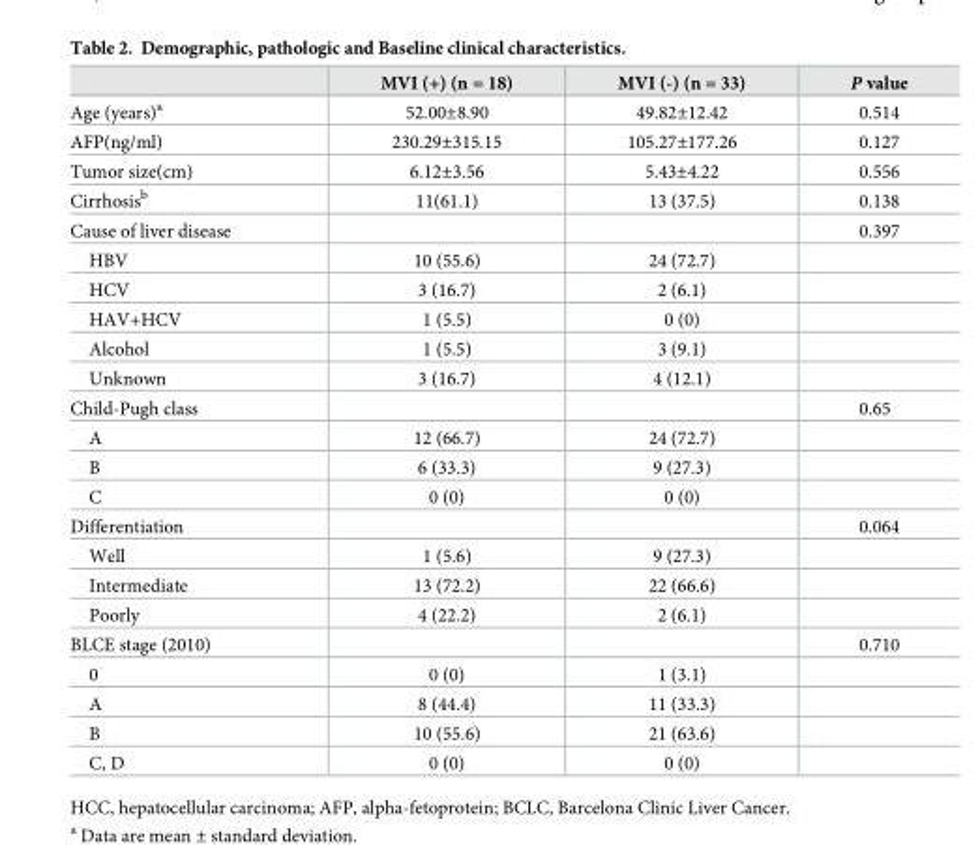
<table><thead><tr><td></td><td>MVI (+) (n = 18)</td><td>MVI (-) (n = 33)</td><td>P value</td></tr></thead><tbody><tr><td>Age (years)<sup>a</sup></td><td>52.00±8.90</td><td>49.82±12.42</td><td>0.514</td></tr><tr><td>AFP(ng/ml)</td><td>230.29±315.15</td><td>105.27±177.26</td><td>0.127</td></tr><tr><td>Tumor size(cm)</td><td>6.12±3.56</td><td>5.43±4.22</td><td>0.556</td></tr><tr><td>Cirrhosis<sup>b</sup></td><td>11(61.1)</td><td>13 (37.5)</td><td>0.138</td></tr><tr><td>Cause of liver disease</td><td></td><td></td><td>0.397</td></tr><tr><td>HBV</td><td>10 (55.6)</td><td>24 (72.7)</td><td></td></tr><tr><td>HCV</td><td>3 (16.7)</td><td>2 (6.1)</td><td></td></tr><tr><td>HAV+HCV</td><td>1 (5.5)</td><td>0 (0)</td><td></td></tr><tr><td>Alcohol</td><td>1 (5.5)</td><td>3 (9.1)</td><td></td></tr><tr><td>Unknown</td><td>3 (16.7)</td><td>4 (12.1)</td><td></td></tr><tr><td>Child-Pugh class</td><td></td><td></td><td>0.65</td></tr><tr><td>A</td><td>12 (66.7)</td><td>24 (72.7)</td><td></td></tr><tr><td>B</td><td>6 (33.3)</td><td>9 (27.3)</td><td></td></tr><tr><td>C</td><td>0 (0)</td><td>0 (0)</td><td></td></tr><tr><td>Differentiation</td><td></td><td></td><td>0.064</td></tr><tr><td>Well</td><td>1 (5.6)</td><td>9 (27.3)</td><td></td></tr><tr><td>Intermediate</td><td>13 (72.2)</td><td>22 (66.6)</td><td></td></tr><tr><td>Poorly</td><td>4 (22.2)</td><td>2 (6.1)</td><td></td></tr><tr><td>BLCE stage (2010)</td><td></td><td></td><td>0.710</td></tr><tr><td>0</td><td>0 (0)</td><td>1 (3.1)</td><td></td></tr><tr><td>A</td><td>8 (44.4)</td><td>11 (33.3)</td><td></td></tr><tr><td>B</td><td>10 (55.6)</td><td>21 (63.6)</td><td></td></tr><tr><td>C, D</td><td>0 (0)</td><td>0 (0)</td><td></td></tr></tbody></table>